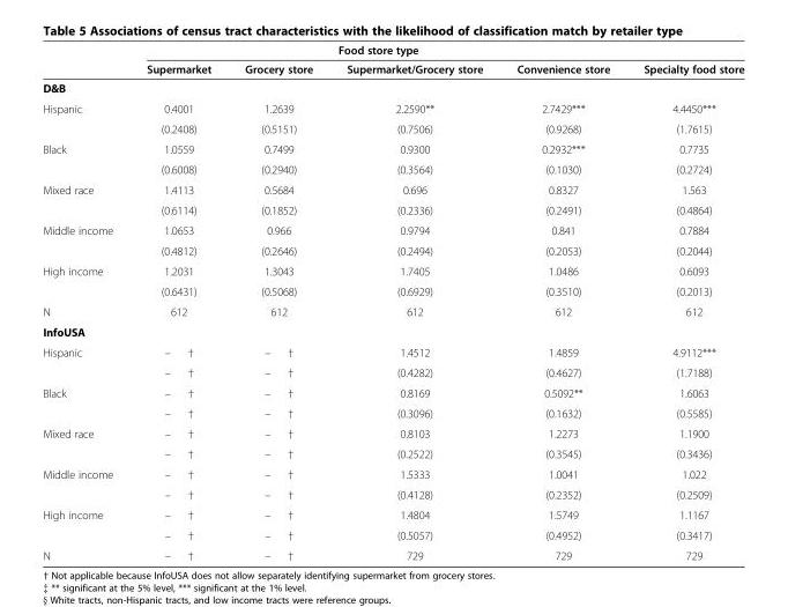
<table><thead><tr><td rowspan="2"></td><td colspan="4">Food store type</td><td rowspan="2">Specialty food store</td></tr><tr><td>Supermarket</td><td>Grocery store</td><td>Supermarket/Grocery store</td><td>Convenience store</td></tr></thead><tbody><tr><td colspan="6">D&amp;B</td></tr><tr><td rowspan="2">Hispanic</td><td>0.4001</td><td>1.2639</td><td>2.2590**</td><td>2.7429***</td><td>4.4450***</td></tr><tr><td>(0.2408)</td><td>(0.5151)</td><td>(0.7506)</td><td>(0.9268)</td><td>(1.7615)</td></tr><tr><td rowspan="2">Black</td><td>1.0559</td><td>0.7499</td><td>0.9300</td><td>0.2932***</td><td>0.7735</td></tr><tr><td>(0.6008)</td><td>(0.2940)</td><td>(0.3564)</td><td>(0.1030)</td><td>(0.2724)</td></tr><tr><td rowspan="2">Mixed race</td><td>1.4113</td><td>0.5684</td><td>0.696</td><td>0.8327</td><td>1.563</td></tr><tr><td>(0.6114)</td><td>(0.1852)</td><td>(0.2336)</td><td>(0.2491)</td><td>(0.4864)</td></tr><tr><td rowspan="2">Middle income</td><td>1.0653</td><td>0.966</td><td>0.9794</td><td>0.841</td><td>0.7884</td></tr><tr><td>(0.4812)</td><td>(0.2646)</td><td>(0.2494)</td><td>(0.2053)</td><td>(0.2044)</td></tr><tr><td rowspan="2">High income</td><td>1.2031</td><td>1.3043</td><td>1.7405</td><td>1.0486</td><td>0.6093</td></tr><tr><td>(0.6431)</td><td>(0.5068)</td><td>(0.6929)</td><td>(0.3510)</td><td>(0.2013)</td></tr><tr><td>N</td><td>612</td><td>612</td><td>612</td><td>612</td><td>612</td></tr><tr><td colspan="6">InfoUSA</td></tr><tr><td rowspan="2">Hispanic</td><td>– †</td><td>– †</td><td>1.4512</td><td>1.4859</td><td>4.9112***</td></tr><tr><td>– †</td><td>– †</td><td>(0.4282)</td><td>(0.4627)</td><td>(1.7188)</td></tr><tr><td rowspan="2">Black</td><td>– †</td><td>– †</td><td>0.8169</td><td>0.5092**</td><td>1.6063</td></tr><tr><td>– †</td><td>– †</td><td>(0.3096)</td><td>(0.1632)</td><td>(0.5585)</td></tr><tr><td rowspan="2">Mixed race</td><td>– †</td><td>– †</td><td>0.8103</td><td>1.2273</td><td>1.1900</td></tr><tr><td>– †</td><td>– †</td><td>(0.2522)</td><td>(0.3545)</td><td>(0.3436)</td></tr><tr><td rowspan="2">Middle income</td><td>– †</td><td>– †</td><td>1.5333</td><td>1.0041</td><td>1.022</td></tr><tr><td>– †</td><td>– †</td><td>(0.4128)</td><td>(0.2352)</td><td>(0.2509)</td></tr><tr><td rowspan="2">High income</td><td>– †</td><td>– †</td><td>1.4804</td><td>1.5749</td><td>1.1167</td></tr><tr><td>– †</td><td>– †</td><td>(0.5057)</td><td>(0.4952)</td><td>(0.3417)</td></tr><tr><td>N</td><td>– †</td><td>– †</td><td>729</td><td>729</td><td>729</td></tr></tbody></table>